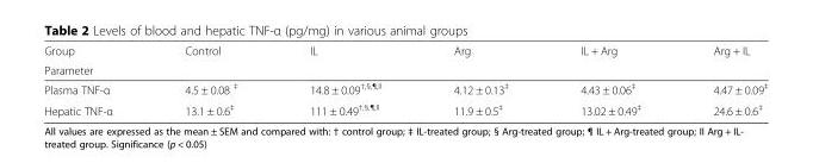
<table><thead><tr><td rowspan="2">Group Parameter</td><td rowspan="2">Control</td><td rowspan="2">IL</td><td rowspan="2">Arg</td><td rowspan="2">IL + Arg</td><td rowspan="2">Arg + IL</td></tr><tr></tr></thead><tbody><tr><td>Plasma TNF-α</td><td>4.5 ± 0.08 <sup>‡</sup></td><td>14.8 ± 0.09<sup>†,§,¶,II</sup></td><td>4.12 ± 0.13<sup>‡</sup></td><td>4.43 ± 0.06<sup>‡</sup></td><td>4.47 ± 0.09<sup>‡</sup></td></tr><tr><td>Hepatic TNF-α</td><td>13.1 ± 0.6<sup>‡</sup></td><td>111 ± 0.49<sup>†,§,¶,II</sup></td><td>11.9 ± 0.5<sup>‡</sup></td><td>13.02 ± 0.49<sup>‡</sup></td><td>24.6 ± 0.6<sup>‡</sup></td></tr></tbody></table>